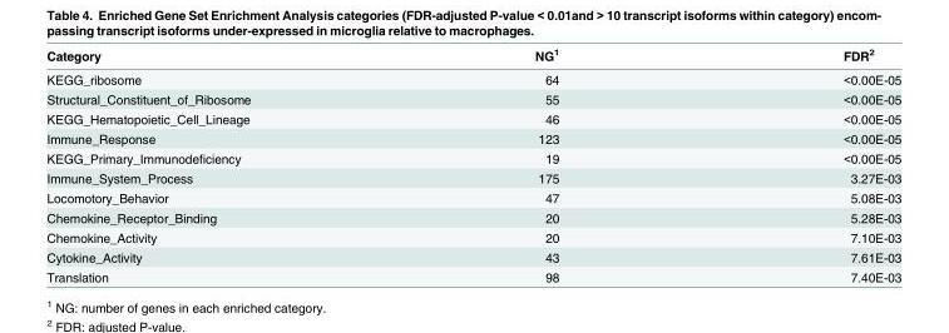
<table><thead><tr><td>Category</td><td>NG<sup>1</sup></td><td>FDR<sup>2</sup></td></tr></thead><tbody><tr><td>KEGG_ribosome</td><td>64</td><td>&lt;0.00E-05</td></tr><tr><td>Structural_Constituent_of_Ribosome</td><td>55</td><td>&lt;0.00E-05</td></tr><tr><td>KEGG_Hematopoietic_Cell_Lineage</td><td>46</td><td>&lt;0.00E-05</td></tr><tr><td>Immune_Response</td><td>123</td><td>&lt;0.00E-05</td></tr><tr><td>KEGG_Primary_Immunodeficiency</td><td>19</td><td>&lt;0.00E-05</td></tr><tr><td>Immune_System_Process</td><td>175</td><td>3.27E-03</td></tr><tr><td>Locomotory_Behavior</td><td>47</td><td>5.08E-03</td></tr><tr><td>Chemokine_Receptor_Binding</td><td>20</td><td>5.28E-03</td></tr><tr><td>Chemokine_Activity</td><td>20</td><td>7.10E-03</td></tr><tr><td>Cytokine_Activity</td><td>43</td><td>7.61E-03</td></tr><tr><td>Translation</td><td>98</td><td>7.40E-03</td></tr></tbody></table>